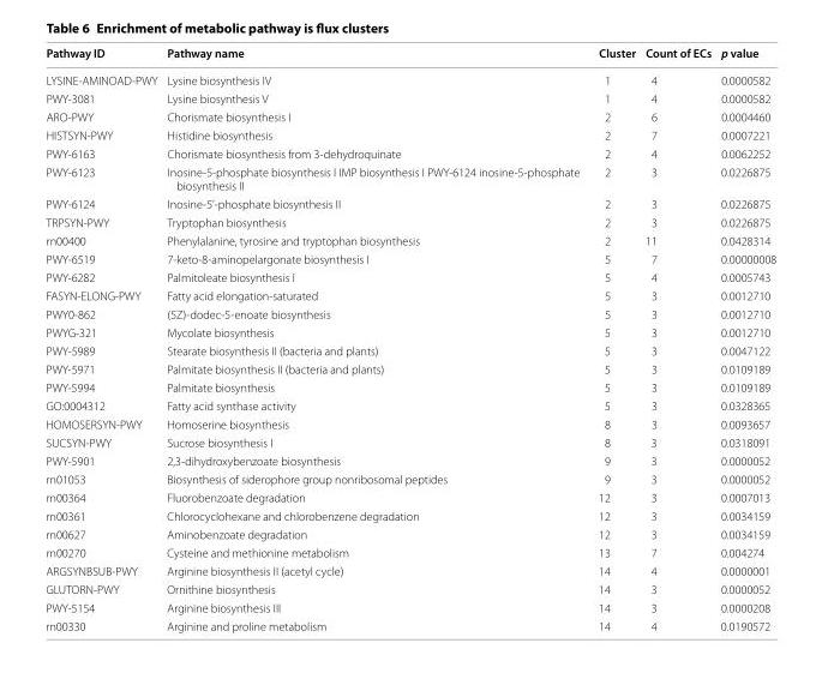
<table><thead><tr><td>Pathway ID</td><td>Pathway name</td><td>Cluster</td><td>Count of ECs</td><td>p value</td></tr></thead><tbody><tr><td>LYSINE-AMINOAD-PWY</td><td>Lysine biosynthesis IV</td><td>1</td><td>4</td><td>0.0000582</td></tr><tr><td>PWY-3081</td><td>Lysine biosynthesis V</td><td>1</td><td>4</td><td>0.0000582</td></tr><tr><td>ARO-PWY</td><td>Chorismate biosynthesis I</td><td>2</td><td>6</td><td>0.0004460</td></tr><tr><td>HISTSYN-PWY</td><td>Histidine biosynthesis</td><td>2</td><td>7</td><td>0.0007221</td></tr><tr><td>PWY-6163</td><td>Chorismate biosynthesis from 3-dehydroquinate</td><td>2</td><td>4</td><td>0.0062252</td></tr><tr><td>PWY-6123</td><td>Inosine-5-phosphate biosynthesis I IMP biosynthesis I PWY-6124 inosine-5-phosphate biosynthesis II</td><td>2</td><td>3</td><td>0.0226875</td></tr><tr><td>PWY-6124</td><td>Inosine-5’-phosphate biosynthesis II</td><td>2</td><td>3</td><td>0.0226875</td></tr><tr><td>TRPSYN-PWY</td><td>Tryptophan biosynthesis</td><td>2</td><td>3</td><td>0.0226875</td></tr><tr><td>rn00400</td><td>Phenylalanine, tyrosine and tryptophan biosynthesis</td><td>2</td><td>11</td><td>0.0428314</td></tr><tr><td>PWY-6519</td><td>7-keto-8-aminopelargonate biosynthesis I</td><td>5</td><td>7</td><td>0.00000008</td></tr><tr><td>PWY-6282</td><td>Palmitoleate biosynthesis I</td><td>5</td><td>4</td><td>0.0005743</td></tr><tr><td>FASYN-ELONG-PWY</td><td>Fatty acid elongation-saturated</td><td>5</td><td>3</td><td>0.0012710</td></tr><tr><td>PWY0-862</td><td>(5Z)-dodec-5-enoate biosynthesis</td><td>5</td><td>3</td><td>0.0012710</td></tr><tr><td>PWYG-321</td><td>Mycolate biosynthesis</td><td>5</td><td>3</td><td>0.0012710</td></tr><tr><td>PWY-5989</td><td>Stearate biosynthesis II (bacteria and plants)</td><td>5</td><td>3</td><td>0.0047122</td></tr><tr><td>PWY-5971</td><td>Palmitate biosynthesis II (bacteria and plants)</td><td>5</td><td>3</td><td>0.0109189</td></tr><tr><td>PWY-5994</td><td>Palmitate biosynthesis</td><td>5</td><td>3</td><td>0.0109189</td></tr><tr><td>GO:0004312</td><td>Fatty acid synthase activity</td><td>5</td><td>3</td><td>0.0328365</td></tr><tr><td>HOMOSERSYN-PWY</td><td>Homoserine biosynthesis</td><td>8</td><td>3</td><td>0.0093657</td></tr><tr><td>SUCSYN-PWY</td><td>Sucrose biosynthesis I</td><td>8</td><td>3</td><td>0.0318091</td></tr><tr><td>PWY-5901</td><td>2,3-dihydroxybenzoate biosynthesis</td><td>9</td><td>3</td><td>0.0000052</td></tr><tr><td>rn01053</td><td>Biosynthesis of siderophore group nonribosomal peptides</td><td>9</td><td>3</td><td>0.0000052</td></tr><tr><td>rn00364</td><td>Fluorobenzoate degradation</td><td>12</td><td>3</td><td>0.0007013</td></tr><tr><td>rn00361</td><td>Chlorocyclohexane and chlorobenzene degradation</td><td>12</td><td>3</td><td>0.0034159</td></tr><tr><td>rn00627</td><td>Aminobenzoate degradation</td><td>12</td><td>3</td><td>0.0034159</td></tr><tr><td>rn00270</td><td>Cysteine and methionine metabolism</td><td>13</td><td>7</td><td>0.004274</td></tr><tr><td>ARGSYNBSUB-PWY</td><td>Arginine biosynthesis II (acetyl cycle)</td><td>14</td><td>4</td><td>0.0000001</td></tr><tr><td>GLUTORN-PWY</td><td>Ornithine biosynthesis</td><td>14</td><td>3</td><td>0.0000052</td></tr><tr><td>PWY-5154</td><td>Arginine biosynthesis III</td><td>14</td><td>3</td><td>0.0000208</td></tr><tr><td>rn00330</td><td>Arginine and proline metabolism</td><td>14</td><td>4</td><td>0.0190572</td></tr></tbody></table>